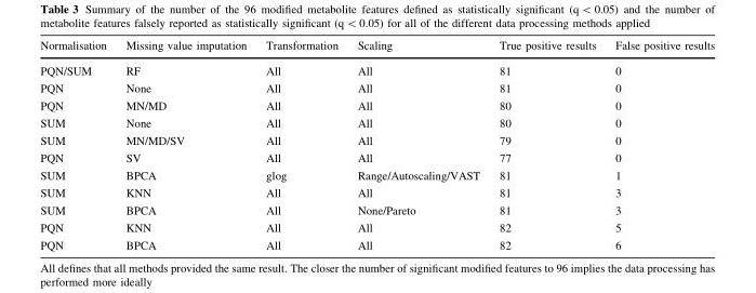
<table><thead><tr><td>Normalisation</td><td>Missing value imputation</td><td>Transformation</td><td>Scaling</td><td>True positive results</td><td>False positive results</td></tr></thead><tbody><tr><td>PQN/SUM</td><td>RF</td><td>All</td><td>All</td><td>81</td><td>0</td></tr><tr><td>PQN</td><td>None</td><td>All</td><td>All</td><td>81</td><td>0</td></tr><tr><td>PQN</td><td>MN/MD</td><td>All</td><td>All</td><td>80</td><td>0</td></tr><tr><td>SUM</td><td>None</td><td>All</td><td>All</td><td>80</td><td>0</td></tr><tr><td>SUM</td><td>MN/MD/SV</td><td>All</td><td>All</td><td>79</td><td>0</td></tr><tr><td>PQN</td><td>SV</td><td>All</td><td>All</td><td>77</td><td>0</td></tr><tr><td>SUM</td><td>BPCA</td><td>glog</td><td>Range/Autoscaling/VAST</td><td>81</td><td>1</td></tr><tr><td>SUM</td><td>KNN</td><td>All</td><td>All</td><td>81</td><td>3</td></tr><tr><td>SUM</td><td>BPCA</td><td>All</td><td>None/Pareto</td><td>81</td><td>3</td></tr><tr><td>PQN</td><td>KNN</td><td>All</td><td>All</td><td>82</td><td>5</td></tr><tr><td>PQN</td><td>BPCA</td><td>All</td><td>All</td><td>82</td><td>6</td></tr></tbody></table>